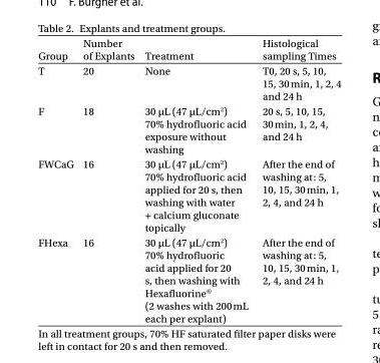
<table><thead><tr><td>Group</td><td>Number of Explants</td><td>Treatment</td><td>Histological sampling Times</td></tr></thead><tbody><tr><td>T</td><td>20</td><td>None</td><td>T0, 20 s, 5, 10, 15, 30 min, 1, 2, 4 and 24 h</td></tr><tr><td>F</td><td>18</td><td>30 µL (47 µL/cm<sup>2</sup>) 70% hydrofluoric acid exposure without washing</td><td>20 s, 5, 10, 15, 30 min, 1, 2, 4, and 24 h</td></tr><tr><td>FWCaG</td><td>16</td><td>30 µL (47 µL/cm<sup>2</sup>) 70% hydrofluoric acid applied for 20 s, then washing with water + calcium gluconate topically</td><td>After the end of washing at: 5, 10, 15, 30 min, 1, 2, 4, and 24 h</td></tr><tr><td>FHexa</td><td>16</td><td>30 µL (47 µL/cm<sup>2</sup>) 70% hydrofluoric acid applied for 20 s, then washing with Hexafluorine® (2 washes with 200 mL each per explant)</td><td>After the end of washing at: 5, 10, 15, 30 min, 1, 2, 4, and 24 h</td></tr></tbody></table>